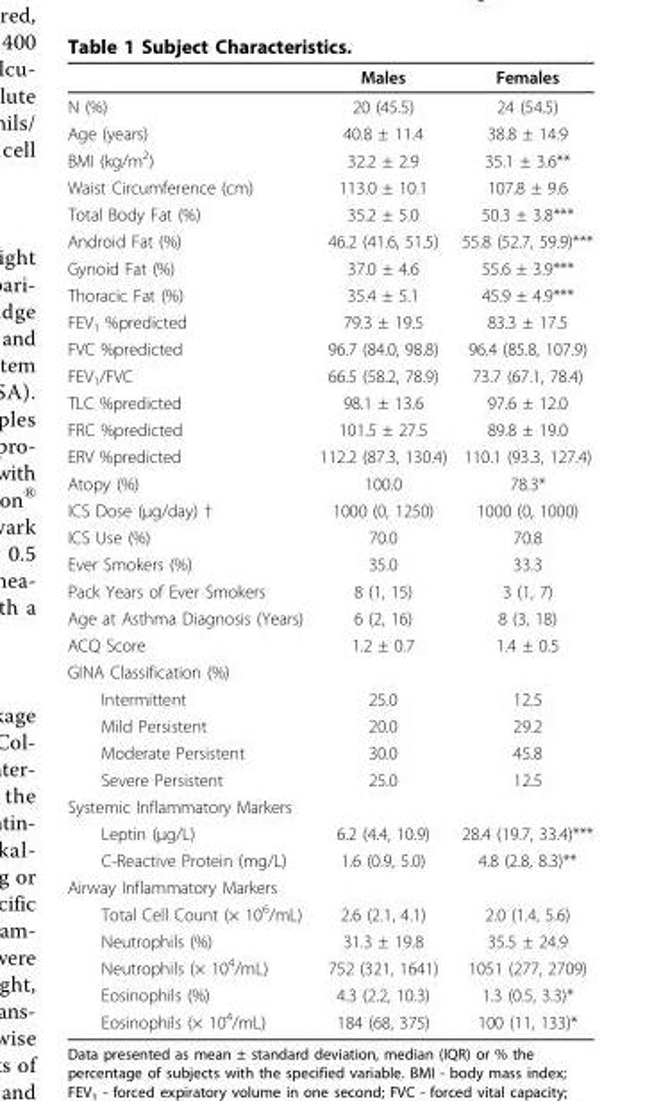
<table><thead><tr><td></td><td>Males</td><td>Females</td></tr></thead><tbody><tr><td>N (%)</td><td>20 (45.5)</td><td>24 (54.5)</td></tr><tr><td>Age (years)</td><td>40.8 ± 11.4</td><td>38.8 ± 14.9</td></tr><tr><td>BMI (kg/m<sup>2</sup>)</td><td>32.2 ± 2.9</td><td>35.1 ± 3.6**</td></tr><tr><td>Waist Circumference (cm)</td><td>113.0 ± 10.1</td><td>107.8 ± 9.6</td></tr><tr><td>Total Body Fat (%)</td><td>35.2 ± 5.0</td><td>50.3 ± 3.8***</td></tr><tr><td>Android Fat (%)</td><td>46.2 (41.6, 51.5)</td><td>55.8 (52.7, 59.9)***</td></tr><tr><td>Gynoid Fat (%)</td><td>37.0 ± 4.6</td><td>55.6 ± 3.9***</td></tr><tr><td>Thoracic Fat (%)</td><td>35.4 ± 5.1</td><td>45.9 ± 4.9***</td></tr><tr><td>FEV<sub>1</sub> %predicted</td><td>79.3 ± 19.5</td><td>83.3 ± 17.5</td></tr><tr><td>FVC %predicted</td><td>96.7 (84.0, 98.8)</td><td>96.4 (85.8, 107.9)</td></tr><tr><td>FEV<sub>1</sub>/FVC</td><td>66.5 (58.2, 78.9)</td><td>73.7 (67.1, 78.4)</td></tr><tr><td>TLC %predicted</td><td>98.1 ± 13.6</td><td>97.6 ± 12.0</td></tr><tr><td>FRC %predicted</td><td>101.5 ± 27.5</td><td>89.8 ± 19.0</td></tr><tr><td>ERV %predicted</td><td>112.2 (87.3, 130.4)</td><td>110.1 (93.3, 127.4)</td></tr><tr><td>Atopy (%)</td><td>100.0</td><td>78.3*</td></tr><tr><td>ICS Dose (μg/day) †</td><td>1000 (0, 1250)</td><td>1000 (0, 1000)</td></tr><tr><td>ICS Use (%)</td><td>70.0</td><td>70.8</td></tr><tr><td>Ever Smokers (%)</td><td>35.0</td><td>33.3</td></tr><tr><td>Pack Years of Ever Smokers</td><td>8 (1, 15)</td><td>3 (1, 7)</td></tr><tr><td>Age at Asthma Diagnosis (Years)</td><td>6 (2, 16)</td><td>8 (3, 18)</td></tr><tr><td>ACQ Score</td><td>1.2 ± 0.7</td><td>1.4 ± 0.5</td></tr><tr><td colspan="3">GINA Classification (%)</td></tr><tr><td>Intermittent</td><td>25.0</td><td>12.5</td></tr><tr><td>Mild Persistent</td><td>20.0</td><td>29.2</td></tr><tr><td>Moderate Persistent</td><td>30.0</td><td>45.8</td></tr><tr><td>Severe Persistent</td><td>25.0</td><td>12.5</td></tr><tr><td colspan="3">Systemic Inflammatory Markers</td></tr><tr><td>Leptin (μg/L)</td><td>6.2 (4.4, 10.9)</td><td>28.4 (19.7, 33.4)***</td></tr><tr><td>C-Reactive Protein (mg/L)</td><td>1.6 (0.9, 5.0)</td><td>4.8 (2.8, 8.3)**</td></tr><tr><td colspan="3">Airway Inflammatory Markers</td></tr><tr><td>Total Cell Count (× 10<sup>6</sup>/mL)</td><td>2.6 (2.1, 4.1)</td><td>2.0 (1.4, 5.6)</td></tr><tr><td>Neutrophils (%)</td><td>31.3 ± 19.8</td><td>35.5 ± 24.9</td></tr><tr><td>Neutrophils (× 10<sup>4</sup>/mL)</td><td>752 (321, 1641)</td><td>1051 (277, 2709)</td></tr><tr><td>Eosinophils (%)</td><td>4.3 (2.2, 10.3)</td><td>1.3 (0.5, 3.3)*</td></tr><tr><td>Eosinophils (× 10<sup>4</sup>/mL)</td><td>184 (68, 375)</td><td>100 (11, 133)*</td></tr></tbody></table>